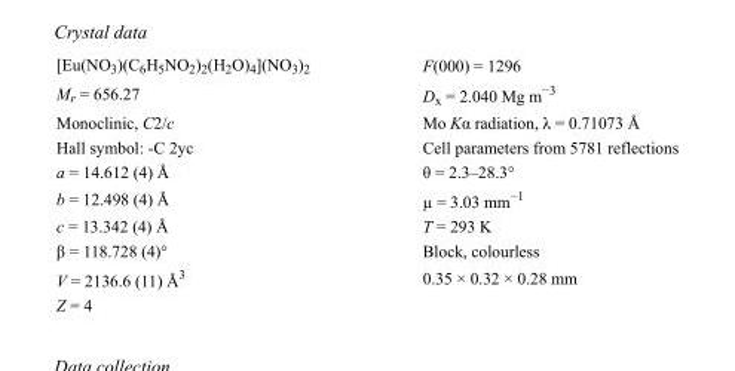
<table><tbody><tr><td>[Eu(NO<sub>3</sub>)(C<sub>6</sub>H<sub>5</sub>NO<sub>2</sub>)<sub>2</sub>(H<sub>2</sub>O)<sub>4</sub>](NO<sub>3</sub>)<sub>2</sub></td><td>F(000) = 1296</td></tr><tr><td>M<sub>r</sub> = 656.27</td><td>D<sub>x</sub> = 2.040 Mg m<sup>−3</sup></td></tr><tr><td>Monoclinic, C2/c</td><td>Mo Kα radiation, λ = 0.71073 Å</td></tr><tr><td>Hall symbol: -C 2yc</td><td>Cell parameters from 5781 reflections</td></tr><tr><td>a = 14.612 (4) Å</td><td>θ = 2.3–28.3°</td></tr><tr><td>b = 12.498 (4) Å</td><td>µ = 3.03 mm<sup>−1</sup></td></tr><tr><td>c = 13.342 (4) Å</td><td>T = 293 K</td></tr><tr><td>β = 118.728 (4)°</td><td>Block, colourless</td></tr><tr><td>V = 2136.6 (11) Å<sup>3</sup></td><td>0.35 × 0.32 × 0.28 mm</td></tr><tr><td>Z = 4</td><td></td></tr></tbody></table>